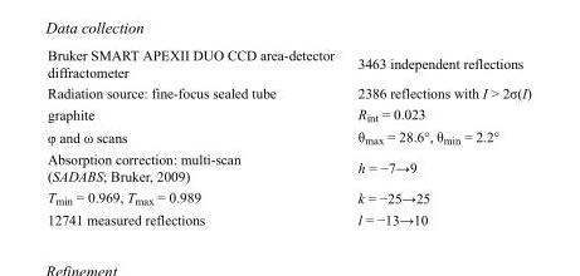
<table><tbody><tr><td>Bruker SMART APEXII DUO CCD area-detector diffractometer</td><td>3463 independent reflections</td></tr><tr><td>Radiation source: fine-focus sealed tube</td><td>2386 reflections with I &gt; 2σ(I)</td></tr><tr><td>graphite</td><td>R<sub>int</sub> = 0.023</td></tr><tr><td>φ and ω scans</td><td>θ<sub>max</sub> = 28.6°, θ<sub>min</sub> = 2.2°</td></tr><tr><td>Absorption correction: multi-scan (SADABS; Bruker, 2009)</td><td>h = −7→9</td></tr><tr><td>T<sub>min</sub> = 0.969, T<sub>max</sub> = 0.989</td><td>k = −25→25</td></tr><tr><td>12741 measured reflections</td><td>l = −13→10</td></tr></tbody></table>